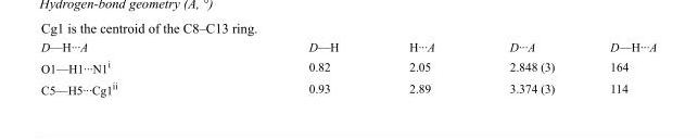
<table><tbody><tr><td>D—H···A</td><td>D—H</td><td>H···A</td><td>D···A</td><td>D—H···A</td></tr><tr><td>O1—H1···N1<sup>i</sup></td><td>0.82</td><td>2.05</td><td>2.848 (3)</td><td>164</td></tr><tr><td>C5—H5···Cg1<sup>ii</sup></td><td>0.93</td><td>2.89</td><td>3.374 (3)</td><td>114</td></tr></tbody></table>